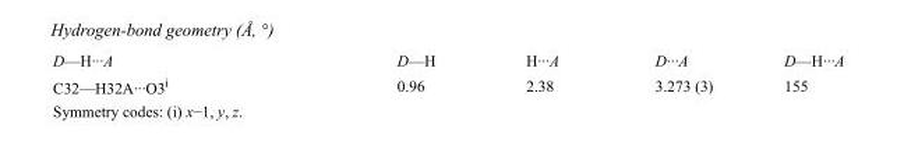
<table><tbody><tr><td>D—H···A</td><td>D—H</td><td>H···A</td><td>D···A</td><td>D—H···A</td></tr><tr><td>C32—H32A···O3<sup>i</sup></td><td>0.96</td><td>2.38</td><td>3.273 (3)</td><td>155</td></tr></tbody></table>